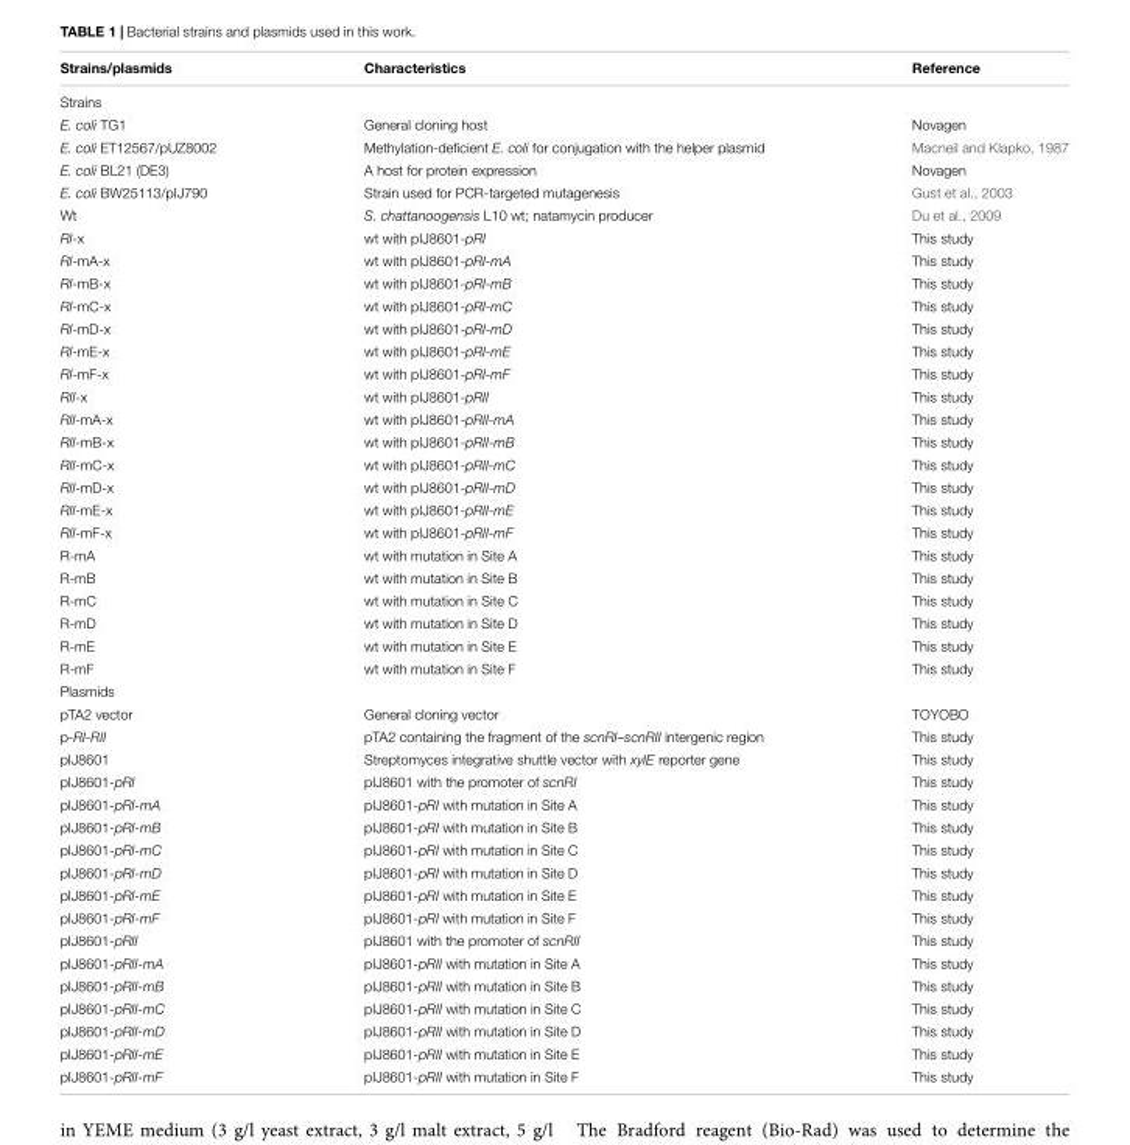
<table><thead><tr><td>Strains/plasmids</td><td>Characteristics</td><td>Reference</td></tr></thead><tbody><tr><td colspan="3">Strains</td></tr><tr><td>E. coli TG1</td><td>General cloning host</td><td>Novagen</td></tr><tr><td>E. coli ET12567/pUZ8002</td><td>Methylation-deficient E. coli for conjugation with the helper plasmid</td><td>Macneil and Klapko, 1987</td></tr><tr><td>E. coli BL21 (DE3)</td><td>A host for protein expression</td><td>Novagen</td></tr><tr><td>E. coli BW25113/pIJ790</td><td>Strain used for PCR-targeted mutagenesis</td><td>Gust et al., 2003</td></tr><tr><td>Wt</td><td>S. chattanoogensis L10 wt; natamycin producer</td><td>Du et al., 2009</td></tr><tr><td>RI-x</td><td>wt with pIJ8601-pRI</td><td>This study</td></tr><tr><td>RI-mA-x</td><td>wt with pIJ8601-pRI-mA</td><td>This study</td></tr><tr><td>RI-mB-x</td><td>wt with pIJ8601-pRI-mB</td><td>This study</td></tr><tr><td>RI-mC-x</td><td>wt with pIJ8601-pRI-mC</td><td>This study</td></tr><tr><td>RI-mD-x</td><td>wt with pIJ8601-pRI-mD</td><td>This study</td></tr><tr><td>RI-mE-x</td><td>wt with pIJ8601-pRI-mE</td><td>This study</td></tr><tr><td>RI-mF-x</td><td>wt with pIJ8601-pRI-mF</td><td>This study</td></tr><tr><td>RII-x</td><td>wt with pIJ8601-pRII</td><td>This study</td></tr><tr><td>RII-mA-x</td><td>wt with pIJ8601-pRII-mA</td><td>This study</td></tr><tr><td>RII-mB-x</td><td>wt with pIJ8601-pRII-mB</td><td>This study</td></tr><tr><td>RII-mC-x</td><td>wt with pIJ8601-pRII-mC</td><td>This study</td></tr><tr><td>RII-mD-x</td><td>wt with pIJ8601-pRII-mD</td><td>This study</td></tr><tr><td>RII-mE-x</td><td>wt with pIJ8601-pRII-mE</td><td>This study</td></tr><tr><td>RII-mF-x</td><td>wt with pIJ8601-pRII-mF</td><td>This study</td></tr><tr><td>R-mA</td><td>wt with mutation in Site A</td><td>This study</td></tr><tr><td>R-mB</td><td>wt with mutation in Site B</td><td>This study</td></tr><tr><td>R-mC</td><td>wt with mutation in Site C</td><td>This study</td></tr><tr><td>R-mD</td><td>wt with mutation in Site D</td><td>This study</td></tr><tr><td>R-mE</td><td>wt with mutation in Site E</td><td>This study</td></tr><tr><td>R-mF</td><td>wt with mutation in Site F</td><td>This study</td></tr><tr><td colspan="3">Plasmids</td></tr><tr><td>pTA2 vector</td><td>General cloning vector</td><td>TOYOBO</td></tr><tr><td>p-RI-RII</td><td>pTA2 containing the fragment of the scnRI–scnRII intergenic region</td><td>This study</td></tr><tr><td>pIJ8601</td><td>Streptomyces integrative shuttle vector with xylE reporter gene</td><td>This study</td></tr><tr><td>pIJ8601-pRI</td><td>pIJ8601 with the promoter of scnRI</td><td>This study</td></tr><tr><td>pIJ8601-pRI-mA</td><td>pIJ8601-pRI with mutation in Site A</td><td>This study</td></tr><tr><td>pIJ8601-pRI-mB</td><td>pIJ8601-pRI with mutation in Site B</td><td>This study</td></tr><tr><td>pIJ8601-pRI-mC</td><td>pIJ8601-pRI with mutation in Site C</td><td>This study</td></tr><tr><td>pIJ8601-pRI-mD</td><td>pIJ8601-pRI with mutation in Site D</td><td>This study</td></tr><tr><td>pIJ8601-pRI-mE</td><td>pIJ8601-pRI with mutation in Site E</td><td>This study</td></tr><tr><td>pIJ8601-pRI-mF</td><td>pIJ8601-pRI with mutation in Site F</td><td>This study</td></tr><tr><td>pIJ8601-pRII</td><td>pIJ8601 with the promoter of scnRII</td><td>This study</td></tr><tr><td>pIJ8601-pRII-mA</td><td>pIJ8601-pRII with mutation in Site A</td><td>This study</td></tr><tr><td>pIJ8601-pRII-mB</td><td>pIJ8601-pRII with mutation in Site B</td><td>This study</td></tr><tr><td>pIJ8601-pRII-mC</td><td>pIJ8601-pRII with mutation in Site C</td><td>This study</td></tr><tr><td>pIJ8601-pRII-mD</td><td>pIJ8601-pRII with mutation in Site D</td><td>This study</td></tr><tr><td>pIJ8601-pRII-mE</td><td>pIJ8601-pRII with mutation in Site E</td><td>This study</td></tr><tr><td>pIJ8601-pRII-mF</td><td>pIJ8601-pRII with mutation in Site F</td><td>This study</td></tr></tbody></table>